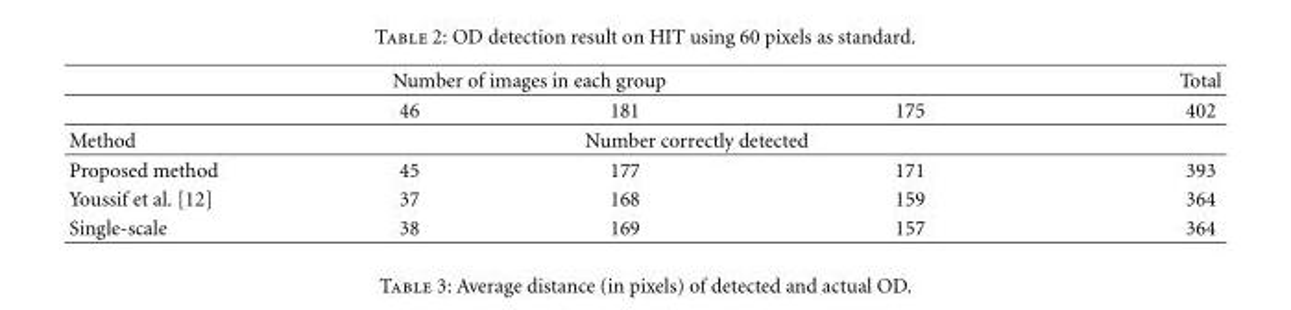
<table><thead><tr><td colspan="4">Number of images in each group</td><td rowspan="2">Total 402</td></tr><tr><td></td><td>46</td><td>181</td><td>175</td></tr></thead><tbody><tr><td>Method</td><td colspan="3">Number correctly detected</td><td></td></tr><tr><td>Proposed method</td><td>45</td><td>177</td><td>171</td><td>393</td></tr><tr><td>Youssif et al. [12]</td><td>37</td><td>168</td><td>159</td><td>364</td></tr><tr><td>Single-scale</td><td>38</td><td>169</td><td>157</td><td>364</td></tr></tbody></table>